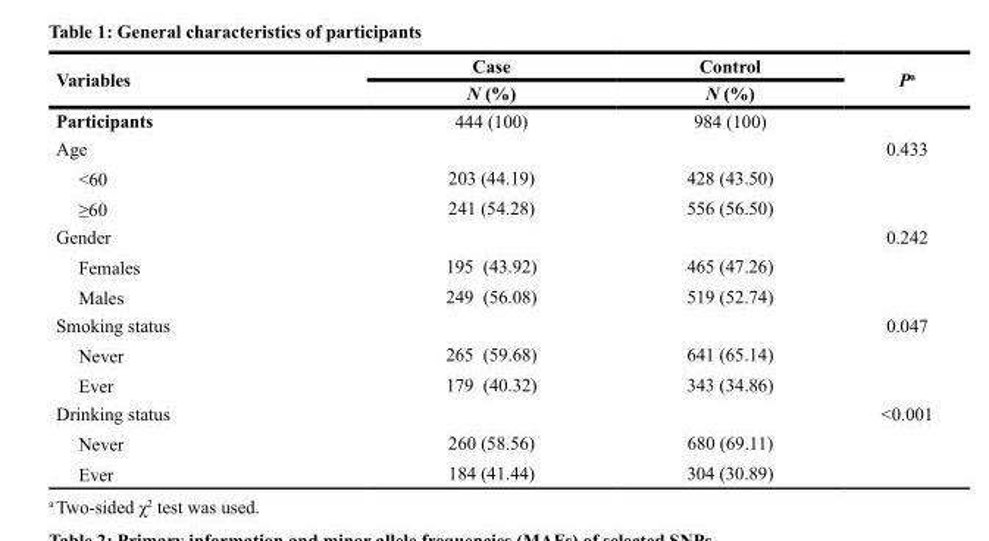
<table><thead><tr><td rowspan="2">Variables</td><td rowspan="2">Case N (%)</td><td rowspan="2">Control N (%)</td><td rowspan="2">P<sup>a</sup></td></tr><tr></tr></thead><tbody><tr><td>Participants</td><td>444 (100)</td><td>984 (100)</td><td></td></tr><tr><td>Age</td><td></td><td></td><td>0.433</td></tr><tr><td>&lt;60</td><td>203 (44.19)</td><td>428 (43.50)</td><td></td></tr><tr><td>≥60</td><td>241 (54.28)</td><td>556 (56.50)</td><td></td></tr><tr><td>Gender</td><td></td><td></td><td>0.242</td></tr><tr><td>Females</td><td>195 (43.92)</td><td>465 (47.26)</td><td></td></tr><tr><td>Males</td><td>249 (56.08)</td><td>519 (52.74)</td><td></td></tr><tr><td>Smoking status</td><td></td><td></td><td>0.047</td></tr><tr><td>Never</td><td>265 (59.68)</td><td>641 (65.14)</td><td></td></tr><tr><td>Ever</td><td>179 (40.32)</td><td>343 (34.86)</td><td></td></tr><tr><td>Drinking status</td><td></td><td></td><td>&lt;0.001</td></tr><tr><td>Never</td><td>260 (58.56)</td><td>680 (69.11)</td><td></td></tr><tr><td>Ever</td><td>184 (41.44)</td><td>304 (30.89)</td><td></td></tr></tbody></table>